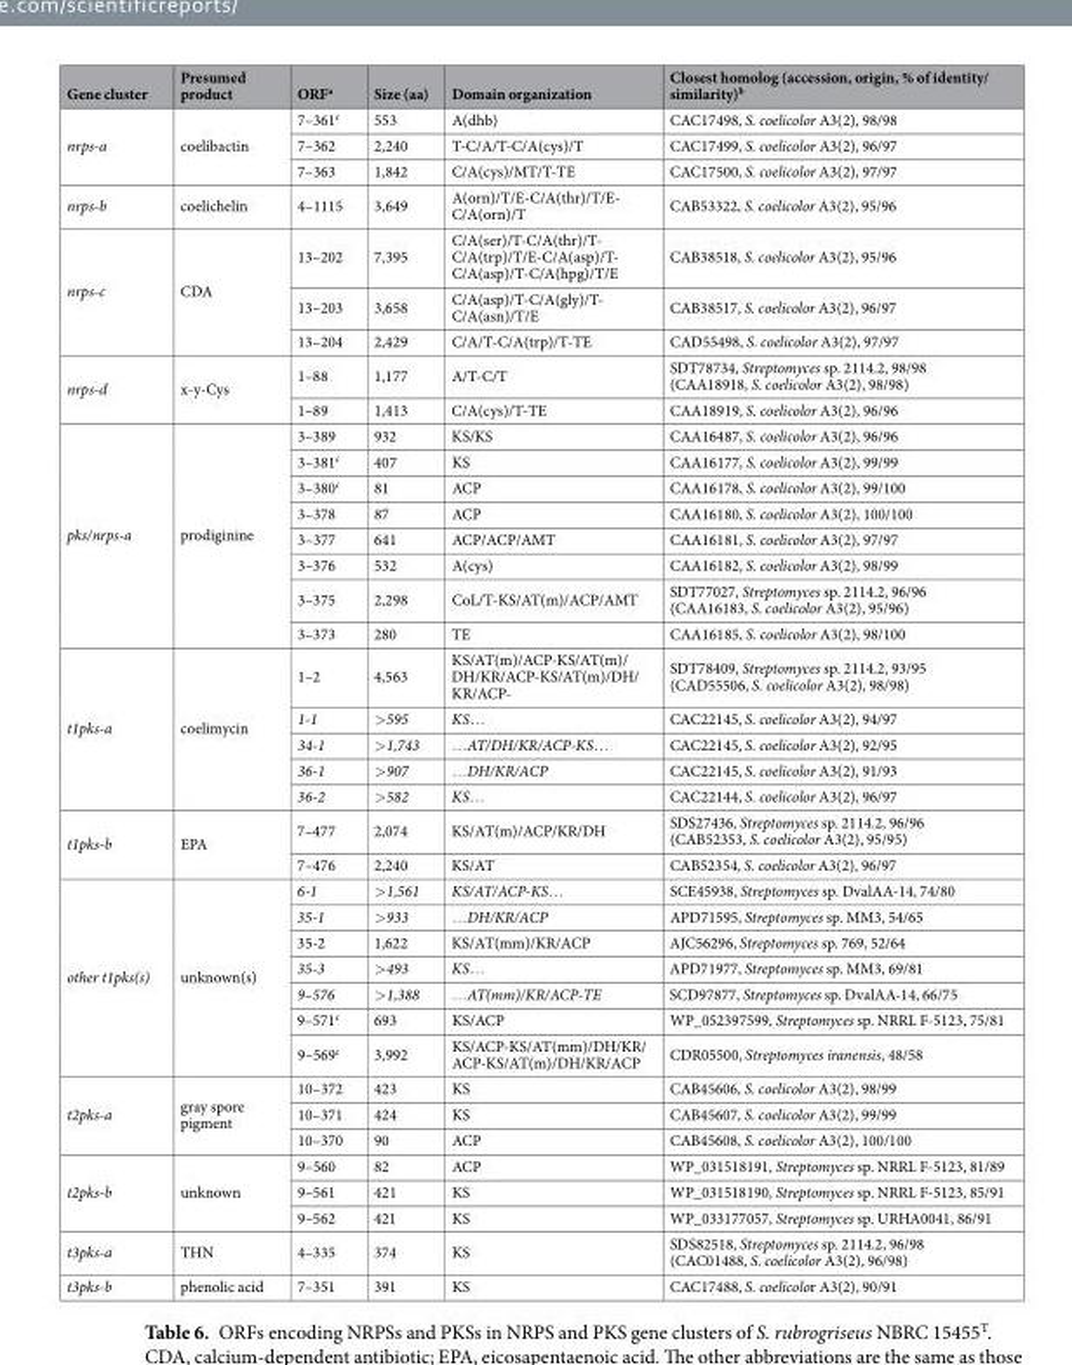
<table><thead><tr><td>Gene cluster</td><td>Presumed product</td><td>ORF<sup>a</sup></td><td>Size (aa)</td><td>Domain organization</td><td>Closest homolog (accession, origin, % of identity/ similarity)<sup>b</sup></td></tr></thead><tbody><tr><td rowspan="3">nrps-a</td><td rowspan="3">coelibactin</td><td>7–361<sup>c</sup></td><td>553</td><td>A(dhb)</td><td>CAC17498, S. coelicolor A3(2), 98/98</td></tr><tr><td>7–362</td><td>2,240</td><td>T-C/A/T-C/A(cys)/T</td><td>CAC17499, S. coelicolor A3(2), 96/97</td></tr><tr><td>7–363</td><td>1,842</td><td>C/A(cys)/MT/T-TE</td><td>CAC17500, S. coelicolor A3(2), 97/97</td></tr><tr><td>nrps-b</td><td>coelichelin</td><td>4–1115</td><td>3,649</td><td>A(orn)/T/E-C/A(thr)/T/E- C/A(orn)/T</td><td>CAB53322, S. coelicolor A3(2), 95/96</td></tr><tr><td rowspan="3">nrps-c</td><td rowspan="3">CDA</td><td>13–202</td><td>7,395</td><td>C/A(ser)/T-C/A(thr)/T- C/A(trp)/T/E-C/A(asp)/T- C/A(asp)/T-C/A(hpg)/T/E</td><td>CAB38518, S. coelicolor A3(2), 95/96</td></tr><tr><td>13–203</td><td>3,658</td><td>C/A(asp)/T-C/A(gly)/T- C/A(asn)/T/E</td><td>CAB38517, S. coelicolor A3(2), 96/97</td></tr><tr><td>13–204</td><td>2,429</td><td>C/A/T-C/A(trp)/T-TE</td><td>CAD55498, S. coelicolor A3(2), 97/97</td></tr><tr><td rowspan="2">nrps-d</td><td rowspan="2">x-y-Cys</td><td>1–88</td><td>1,177</td><td>A/T-C/T</td><td>SDT78734, Streptomyces sp. 2114.2, 98/98 (CAA18918, S. coelicolor A3(2), 98/98)</td></tr><tr><td>1–89</td><td>1,413</td><td>C/A(cys)/T-TE</td><td>CAA18919, S. coelicolor A3(2), 96/96</td></tr><tr><td rowspan="8">pks/nrps-a</td><td rowspan="8">prodiginine</td><td>3–389</td><td>932</td><td>KS/KS</td><td>CAA16487, S. coelicolor A3(2), 96/96</td></tr><tr><td>3–381<sup>c</sup></td><td>407</td><td>KS</td><td>CAA16177, S. coelicolor A3(2), 99/99</td></tr><tr><td>3–380<sup>c</sup></td><td>81</td><td>ACP</td><td>CAA16178, S. coelicolor A3(2), 99/100</td></tr><tr><td>3–378</td><td>87</td><td>ACP</td><td>CAA16180, S. coelicolor A3(2), 100/100</td></tr><tr><td>3–377</td><td>641</td><td>ACP/ACP/AMT</td><td>CAA16181, S. coelicolor A3(2), 97/97</td></tr><tr><td>3–376</td><td>532</td><td>A(cys)</td><td>CAA16182, S. coelicolor A3(2), 98/99</td></tr><tr><td>3–375</td><td>2,298</td><td>CoL/T-KS/AT(m)/ACP/AMT</td><td>SDT77027, Streptomyces sp. 2114.2, 96/96 (CAA16183, S. coelicolor A3(2), 95/96)</td></tr><tr><td>3–373</td><td>280</td><td>TE</td><td>CAA16185, S. coelicolor A3(2), 98/100</td></tr><tr><td rowspan="5">t1pks-a</td><td rowspan="5">coelimycin</td><td>1–2</td><td>4,563</td><td>KS/AT(m)/ACP-KS/AT(m)/ DH/KR/ACP-KS/AT(m)/DH/ KR/ACP-</td><td>SDT78409, Streptomyces sp. 2114.2, 93/95 (CAD55506, S. coelicolor A3(2), 98/98)</td></tr><tr><td>1-1</td><td>&gt;595</td><td>KS…</td><td>CAC22145, S. coelicolor A3(2), 94/97</td></tr><tr><td>34-1</td><td>&gt;1,743</td><td>…AT/DH/KR/ACP-KS…</td><td>CAC22145, S. coelicolor A3(2), 92/95</td></tr><tr><td>36-1</td><td>&gt;907</td><td>…DH/KR/ACP</td><td>CAC22145, S. coelicolor A3(2), 91/93</td></tr><tr><td>36-2</td><td>&gt;582</td><td>KS…</td><td>CAC22144, S. coelicolor A3(2), 96/97</td></tr><tr><td rowspan="2">t1pks-b</td><td rowspan="2">EPA</td><td>7–477</td><td>2,074</td><td>KS/AT(m)/ACP/KR/DH</td><td>SDS27436, Streptomyces sp. 2114.2, 96/96 (CAB52353, S. coelicolor A3(2), 95/95)</td></tr><tr><td>7–476</td><td>2,240</td><td>KS/AT</td><td>CAB52354, S. coelicolor A3(2), 96/97</td></tr><tr><td rowspan="7">other t1pks(s)</td><td rowspan="7">unknown(s)</td><td>6-1</td><td>&gt;1,561</td><td>KS/AT/ACP-KS…</td><td>SCE45938, Streptomyces sp. DvalAA-14, 74/80</td></tr><tr><td>35-1</td><td>&gt;933</td><td>…DH/KR/ACP</td><td>APD71595, Streptomyces sp. MM3, 54/65</td></tr><tr><td>35-2</td><td>1,622</td><td>KS/AT(mm)/KR/ACP</td><td>AJC56296, Streptomyces sp. 769, 52/64</td></tr><tr><td>35-3</td><td>&gt;493</td><td>KS…</td><td>APD71977, Streptomyces sp. MM3, 69/81</td></tr><tr><td>9–576</td><td>&gt;1,388</td><td>…AT(mm)/KR/ACP-TE</td><td>SCD97877, Streptomyces sp. DvalAA-14, 66/75</td></tr><tr><td>9–571<sup>c</sup></td><td>693</td><td>KS/ACP</td><td>WP_052397599, Streptomyces sp. NRRL F-5123, 75/81</td></tr><tr><td>9–569<sup>c</sup></td><td>3,992</td><td>KS/ACP-KS/AT(mm)/DH/KR/ ACP-KS/AT(m)/DH/KR/ACP</td><td>CDR05500, Streptomyces iranensis, 48/58</td></tr><tr><td rowspan="3">t2pks-a</td><td rowspan="3">gray spore pigment</td><td>10–372</td><td>423</td><td>KS</td><td>CAB45606, S. coelicolor A3(2), 98/99</td></tr><tr><td>10–371</td><td>424</td><td>KS</td><td>CAB45607, S. coelicolor A3(2), 99/99</td></tr><tr><td>10–370</td><td>90</td><td>ACP</td><td>CAB45608, S. coelicolor A3(2), 100/100</td></tr><tr><td rowspan="3">t2pks-b</td><td rowspan="3">unknown</td><td>9–560</td><td>82</td><td>ACP</td><td>WP_031518191, Streptomyces sp. NRRL F-5123, 81/89</td></tr><tr><td>9–561</td><td>421</td><td>KS</td><td>WP_031518190, Streptomyces sp. NRRL F-5123, 85/91</td></tr><tr><td>9–562</td><td>421</td><td>KS</td><td>WP_033177057, Streptomyces sp. URHA0041, 86/91</td></tr><tr><td>t3pks-a</td><td>THN</td><td>4–335</td><td>374</td><td>KS</td><td>SDS82518, Streptomyces sp. 2114.2, 96/98 (CAC01488, S. coelicolor A3(2), 96/98)</td></tr><tr><td>t3pks-b</td><td>phenolic acid</td><td>7–351</td><td>391</td><td>KS</td><td>CAC17488, S. coelicolor A3(2), 90/91</td></tr></tbody></table>